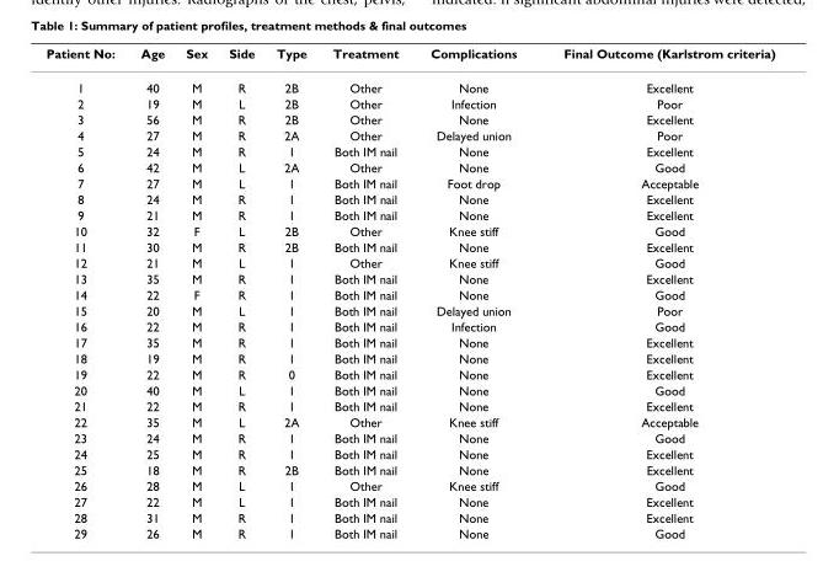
<table><thead><tr><td>Patient No:</td><td>Age</td><td>Sex</td><td>Side</td><td>Type</td><td>Treatment</td><td>Complications</td><td>Final Outcome (Karlstrom criteria)</td></tr></thead><tbody><tr><td>1</td><td>40</td><td>M</td><td>R</td><td>2B</td><td>Other</td><td>None</td><td>Excellent</td></tr><tr><td>2</td><td>19</td><td>M</td><td>L</td><td>2B</td><td>Other</td><td>Infection</td><td>Poor</td></tr><tr><td>3</td><td>56</td><td>M</td><td>R</td><td>2B</td><td>Other</td><td>None</td><td>Excellent</td></tr><tr><td>4</td><td>27</td><td>M</td><td>R</td><td>2A</td><td>Other</td><td>Delayed union</td><td>Poor</td></tr><tr><td>5</td><td>24</td><td>M</td><td>R</td><td>1</td><td>Both IM nail</td><td>None</td><td>Excellent</td></tr><tr><td>6</td><td>42</td><td>M</td><td>L</td><td>2A</td><td>Other</td><td>None</td><td>Good</td></tr><tr><td>7</td><td>27</td><td>M</td><td>L</td><td>1</td><td>Both IM nail</td><td>Foot drop</td><td>Acceptable</td></tr><tr><td>8</td><td>24</td><td>M</td><td>R</td><td>1</td><td>Both IM nail</td><td>None</td><td>Excellent</td></tr><tr><td>9</td><td>21</td><td>M</td><td>R</td><td>1</td><td>Both IM nail</td><td>None</td><td>Excellent</td></tr><tr><td>10</td><td>32</td><td>F</td><td>L</td><td>2B</td><td>Other</td><td>Knee stiff</td><td>Good</td></tr><tr><td>11</td><td>30</td><td>M</td><td>R</td><td>2B</td><td>Both IM nail</td><td>None</td><td>Excellent</td></tr><tr><td>12</td><td>21</td><td>M</td><td>L</td><td>1</td><td>Other</td><td>Knee stiff</td><td>Good</td></tr><tr><td>13</td><td>35</td><td>M</td><td>R</td><td>1</td><td>Both IM nail</td><td>None</td><td>Excellent</td></tr><tr><td>14</td><td>22</td><td>F</td><td>R</td><td>1</td><td>Both IM nail</td><td>None</td><td>Good</td></tr><tr><td>15</td><td>20</td><td>M</td><td>L</td><td>1</td><td>Both IM nail</td><td>Delayed union</td><td>Poor</td></tr><tr><td>16</td><td>22</td><td>M</td><td>R</td><td>1</td><td>Both IM nail</td><td>Infection</td><td>Good</td></tr><tr><td>17</td><td>35</td><td>M</td><td>R</td><td>1</td><td>Both IM nail</td><td>None</td><td>Excellent</td></tr><tr><td>18</td><td>19</td><td>M</td><td>R</td><td>1</td><td>Both IM nail</td><td>None</td><td>Excellent</td></tr><tr><td>19</td><td>22</td><td>M</td><td>R</td><td>0</td><td>Both IM nail</td><td>None</td><td>Excellent</td></tr><tr><td>20</td><td>40</td><td>M</td><td>L</td><td>1</td><td>Both IM nail</td><td>None</td><td>Good</td></tr><tr><td>21</td><td>22</td><td>M</td><td>R</td><td>1</td><td>Both IM nail</td><td>None</td><td>Excellent</td></tr><tr><td>22</td><td>35</td><td>M</td><td>L</td><td>2A</td><td>Other</td><td>Knee stiff</td><td>Acceptable</td></tr><tr><td>23</td><td>24</td><td>M</td><td>R</td><td>1</td><td>Both IM nail</td><td>None</td><td>Good</td></tr><tr><td>24</td><td>25</td><td>M</td><td>R</td><td>1</td><td>Both IM nail</td><td>None</td><td>Excellent</td></tr><tr><td>25</td><td>18</td><td>M</td><td>R</td><td>2B</td><td>Both IM nail</td><td>None</td><td>Excellent</td></tr><tr><td>26</td><td>28</td><td>M</td><td>L</td><td>1</td><td>Other</td><td>Knee stiff</td><td>Good</td></tr><tr><td>27</td><td>22</td><td>M</td><td>L</td><td>1</td><td>Both IM nail</td><td>None</td><td>Excellent</td></tr><tr><td>28</td><td>31</td><td>M</td><td>R</td><td>1</td><td>Both IM nail</td><td>None</td><td>Excellent</td></tr><tr><td>29</td><td>26</td><td>M</td><td>R</td><td>1</td><td>Both IM nail</td><td>None</td><td>Good</td></tr></tbody></table>